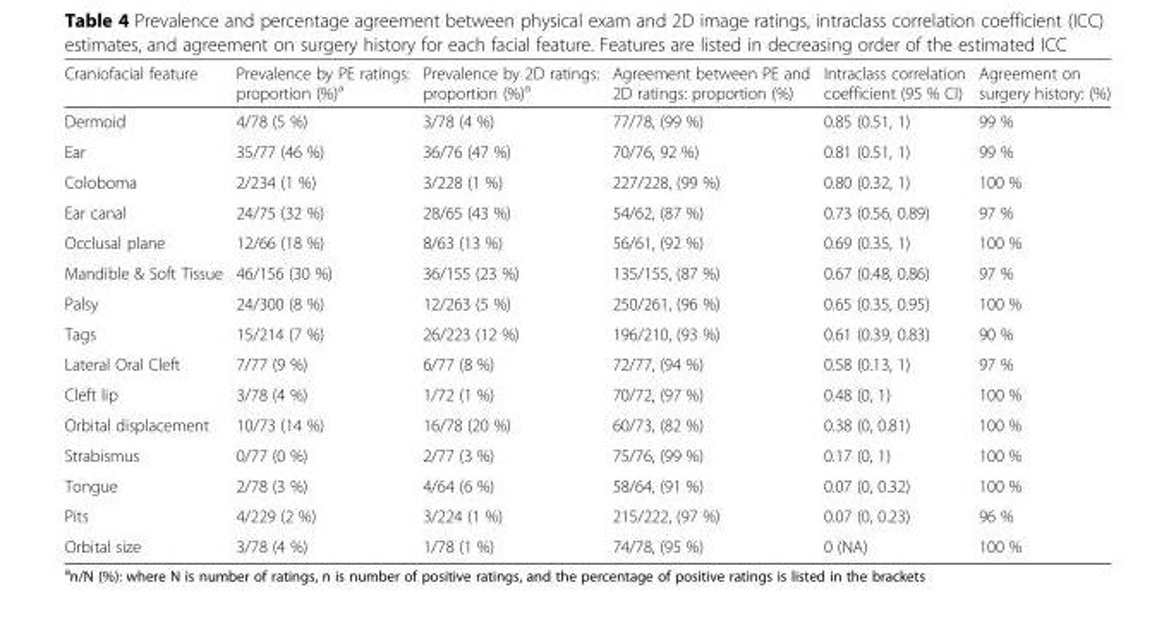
<table><thead><tr><td>Craniofacial feature</td><td>Prevalence by PE ratings: proportion (%)<sup>a</sup></td><td>Prevalence by 2D ratings: proportion (%)<sup>a</sup></td><td>Agreement between PE and 2D ratings: proportion (%)</td><td>Intraclass correlation coefficient (95 % CI)</td><td>Agreement on surgery history: (%)</td></tr></thead><tbody><tr><td>Dermoid</td><td>4/78 (5 %)</td><td>3/78 (4 %)</td><td>77/78, (99 %)</td><td>0.85 (0.51, 1)</td><td>99 %</td></tr><tr><td>Ear</td><td>35/77 (46 %)</td><td>36/76 (47 %)</td><td>70/76, 92 %)</td><td>0.81 (0.51, 1)</td><td>99 %</td></tr><tr><td>Coloboma</td><td>2/234 (1 %)</td><td>3/228 (1 %)</td><td>227/228, (99 %)</td><td>0.80 (0.32, 1)</td><td>100 %</td></tr><tr><td>Ear canal</td><td>24/75 (32 %)</td><td>28/65 (43 %)</td><td>54/62, (87 %)</td><td>0.73 (0.56, 0.89)</td><td>97 %</td></tr><tr><td>Occlusal plane</td><td>12/66 (18 %)</td><td>8/63 (13 %)</td><td>56/61, (92 %)</td><td>0.69 (0.35, 1)</td><td>100 %</td></tr><tr><td>Mandible &amp; Soft Tissue</td><td>46/156 (30 %)</td><td>36/155 (23 %)</td><td>135/155, (87 %)</td><td>0.67 (0.48, 0.86)</td><td>97 %</td></tr><tr><td>Palsy</td><td>24/300 (8 %)</td><td>12/263 (5 %)</td><td>250/261, (96 %)</td><td>0.65 (0.35, 0.95)</td><td>100 %</td></tr><tr><td>Tags</td><td>15/214 (7 %)</td><td>26/223 (12 %)</td><td>196/210, (93 %)</td><td>0.61 (0.39, 0.83)</td><td>90 %</td></tr><tr><td>Lateral Oral Cleft</td><td>7/77 (9 %)</td><td>6/77 (8 %)</td><td>72/77, (94 %)</td><td>0.58 (0.13, 1)</td><td>97 %</td></tr><tr><td>Cleft lip</td><td>3/78 (4 %)</td><td>1/72 (1 %)</td><td>70/72, (97 %)</td><td>0.48 (0, 1)</td><td>100 %</td></tr><tr><td>Orbital displacement</td><td>10/73 (14 %)</td><td>16/78 (20 %)</td><td>60/73, (82 %)</td><td>0.38 (0, 0.81)</td><td>100 %</td></tr><tr><td>Strabismus</td><td>0/77 (0 %)</td><td>2/77 (3 %)</td><td>75/76, (99 %)</td><td>0.17 (0, 1)</td><td>100 %</td></tr><tr><td>Tongue</td><td>2/78 (3 %)</td><td>4/64 (6 %)</td><td>58/64, (91 %)</td><td>0.07 (0, 0.32)</td><td>100 %</td></tr><tr><td>Pits</td><td>4/229 (2 %)</td><td>3/224 (1 %)</td><td>215/222, (97 %)</td><td>0.07 (0, 0.23)</td><td>96 %</td></tr><tr><td>Orbital size</td><td>3/78 (4 %)</td><td>1/78 (1 %)</td><td>74/78, (95 %)</td><td>0 (NA)</td><td>100 %</td></tr></tbody></table>